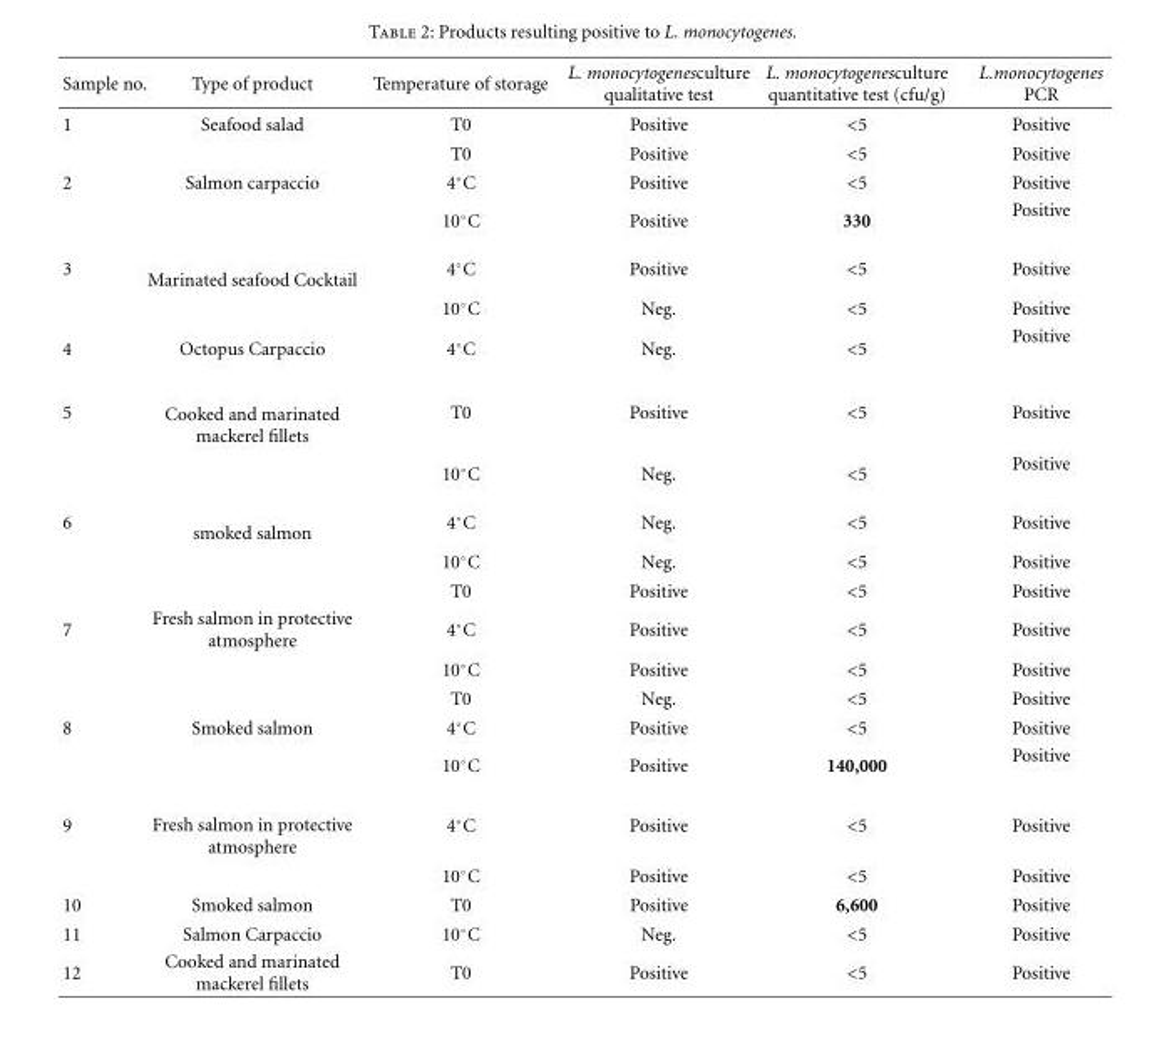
<table><thead><tr><td>Sample no.</td><td>Type of product</td><td>Temperature of storage</td><td>L. monocytogenesculture qualitative test</td><td>L. monocytogenesculture quantitative test (cfu/g)</td><td>L.monocytogenes PCR</td></tr></thead><tbody><tr><td rowspan="2">1</td><td>Seafood salad</td><td>T0</td><td>Positive</td><td>&lt;5</td><td>Positive</td></tr><tr><td></td><td>T0</td><td>Positive</td><td>&lt;5</td><td>Positive</td></tr><tr><td rowspan="2">2</td><td>Salmon carpaccio</td><td>4◦C</td><td>Positive</td><td>&lt;5</td><td>Positive</td></tr><tr><td></td><td>10◦C</td><td>Positive</td><td>330</td><td>Positive</td></tr><tr><td rowspan="2">3</td><td>Marinated seafood Cocktail</td><td>4◦C</td><td>Positive</td><td>&lt;5</td><td>Positive</td></tr><tr><td></td><td>10◦C</td><td>Neg.</td><td>&lt;5</td><td>Positive</td></tr><tr><td>4</td><td>Octopus Carpaccio</td><td>4◦C</td><td>Neg.</td><td>&lt;5</td><td>Positive</td></tr><tr><td rowspan="2">5</td><td>Cooked and marinated mackerel fillets</td><td>T0</td><td>Positive</td><td>&lt;5</td><td>Positive</td></tr><tr><td></td><td>10◦C</td><td>Neg.</td><td>&lt;5</td><td>Positive</td></tr><tr><td rowspan="3">6</td><td>smoked salmon</td><td>4◦C</td><td>Neg.</td><td>&lt;5</td><td>Positive</td></tr><tr><td></td><td>10◦C</td><td>Neg.</td><td>&lt;5</td><td>Positive</td></tr><tr><td></td><td>T0</td><td>Positive</td><td>&lt;5</td><td>Positive</td></tr><tr><td rowspan="3">7</td><td>Fresh salmon in protective atmosphere</td><td>4◦C</td><td>Positive</td><td>&lt;5</td><td>Positive</td></tr><tr><td></td><td>10◦C</td><td>Positive</td><td>&lt;5</td><td>Positive</td></tr><tr><td></td><td>T0</td><td>Neg.</td><td>&lt;5</td><td>Positive</td></tr><tr><td rowspan="2">8</td><td>Smoked salmon</td><td>4◦C</td><td>Positive</td><td>&lt;5</td><td>Positive</td></tr><tr><td></td><td>10◦C</td><td>Positive</td><td>140,000</td><td>Positive</td></tr><tr><td rowspan="2">9</td><td>Fresh salmon in protective atmosphere</td><td>4◦C</td><td>Positive</td><td>&lt;5</td><td>Positive</td></tr><tr><td></td><td>10◦C</td><td>Positive</td><td>&lt;5</td><td>Positive</td></tr><tr><td>10</td><td>Smoked salmon</td><td>T0</td><td>Positive</td><td>6,600</td><td>Positive</td></tr><tr><td>11</td><td>Salmon Carpaccio</td><td>10◦C</td><td>Neg.</td><td>&lt;5</td><td>Positive</td></tr><tr><td>12</td><td>Cooked and marinated mackerel fillets</td><td>T0</td><td>Positive</td><td>&lt;5</td><td>Positive</td></tr></tbody></table>